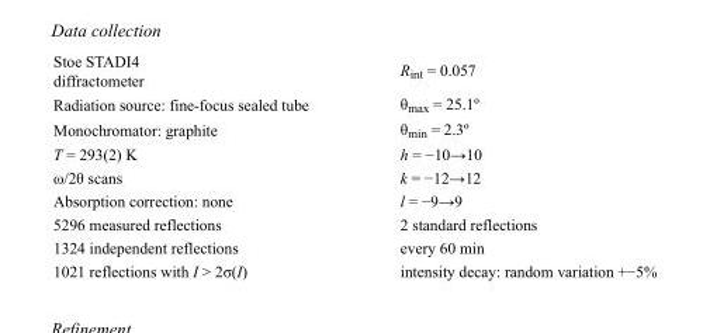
<table><tbody><tr><td>Stoe STADI4 diffractometer</td><td>R<sub>int</sub> = 0.057</td></tr><tr><td>Radiation source: fine-focus sealed tube</td><td>θ<sub>max</sub> = 25.1º</td></tr><tr><td>Monochromator: graphite</td><td>θ<sub>min</sub> = 2.3º</td></tr><tr><td>T = 293(2) K</td><td>h = −10→10</td></tr><tr><td>ω/2θ scans</td><td>k = −12→12</td></tr><tr><td>Absorption correction: none</td><td>l = −9→9</td></tr><tr><td>5296 measured reflections</td><td>2 standard reflections</td></tr><tr><td>1324 independent reflections</td><td>every 60 min</td></tr><tr><td>1021 reflections with I &gt; 2σ(I)</td><td>intensity decay: random variation +−5%</td></tr></tbody></table>